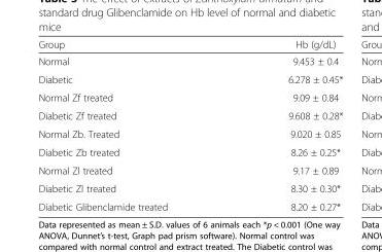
<table><thead><tr><td>Group</td><td>Hb (g/dL)</td></tr></thead><tbody><tr><td>Normal</td><td>9.453 ± 0.4</td></tr><tr><td>Diabetic</td><td>6.278 ± 0.45*</td></tr><tr><td>Normal Zf treated</td><td>9.09 ± 0.84</td></tr><tr><td>Diabetic Zf treated</td><td>9.608 ± 0.28*</td></tr><tr><td>Normal Zb. Treated</td><td>9.020 ± 0.85</td></tr><tr><td>Diabetic Zb treated</td><td>8.26 ± 0.25*</td></tr><tr><td>Normal Zl treated</td><td>9.17 ± 0.89</td></tr><tr><td>Diabetic Zl treated</td><td>8.30 ± 0.30*</td></tr><tr><td>Diabetic Glibenclamide treated</td><td>8.20 ± 0.27*</td></tr></tbody></table>